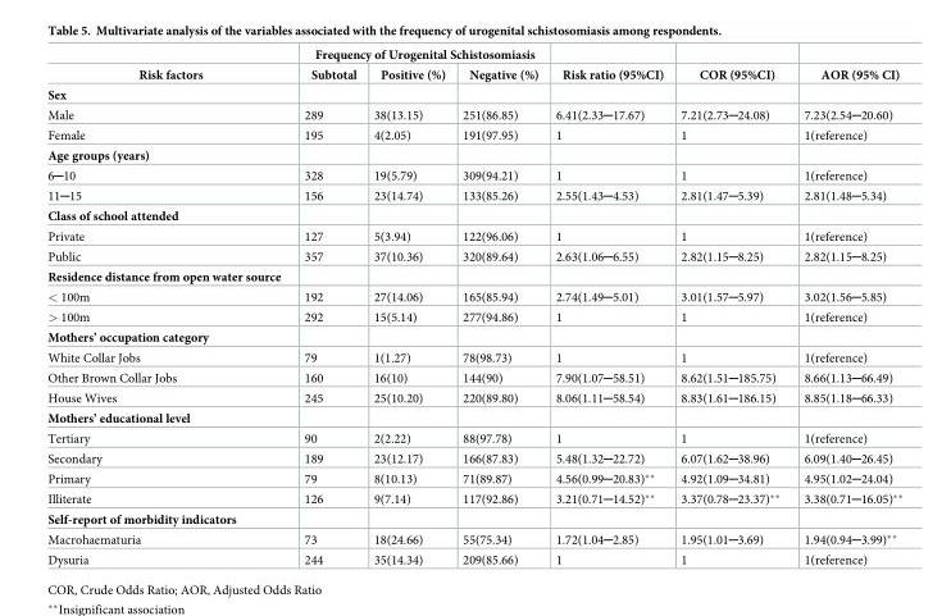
<table><thead><tr><td rowspan="2">Risk factors</td><td colspan="3">Frequency of Urogenital Schistosomiasis</td><td rowspan="2">Risk ratio (95%CI)</td><td rowspan="2">COR (95%CI)</td><td rowspan="2">AOR (95% CI)</td></tr><tr><td>Subtotal</td><td>Positive (%)</td><td>Negative (%)</td></tr></thead><tbody><tr><td colspan="7">Sex</td></tr><tr><td>Male</td><td>289</td><td>38(13.15)</td><td>251(86.85)</td><td>6.41(2.33─17.67)</td><td>7.21(2.73─24.08)</td><td>7.23(2.54─20.60)</td></tr><tr><td>Female</td><td>195</td><td>4(2.05)</td><td>191(97.95)</td><td>1</td><td>1</td><td>1(reference)</td></tr><tr><td colspan="7">Age groups (years)</td></tr><tr><td>6─10</td><td>328</td><td>19(5.79)</td><td>309(94.21)</td><td>1</td><td>1</td><td>1(reference)</td></tr><tr><td>11─15</td><td>156</td><td>23(14.74)</td><td>133(85.26)</td><td>2.55(1.43─4.53)</td><td>2.81(1.47─5.39)</td><td>2.81(1.48─5.34)</td></tr><tr><td colspan="7">Class of school attended</td></tr><tr><td>Private</td><td>127</td><td>5(3.94)</td><td>122(96.06)</td><td>1</td><td>1</td><td>1(reference)</td></tr><tr><td>Public</td><td>357</td><td>37(10.36)</td><td>320(89.64)</td><td>2.63(1.06─6.55)</td><td>2.82(1.15─8.25)</td><td>2.82(1.15─8.25)</td></tr><tr><td colspan="7">Residence distance from open water source</td></tr><tr><td>&lt; 100m</td><td>192</td><td>27(14.06)</td><td>165(85.94)</td><td>2.74(1.49─5.01)</td><td>3.01(1.57─5.97)</td><td>3.02(1.56─5.85)</td></tr><tr><td>&gt; 100m</td><td>292</td><td>15(5.14)</td><td>277(94.86)</td><td>1</td><td>1</td><td>1(reference)</td></tr><tr><td colspan="7">Mothers’ occupation category</td></tr><tr><td>White Collar Jobs</td><td>79</td><td>1(1.27)</td><td>78(98.73)</td><td>1</td><td>1</td><td>1(reference)</td></tr><tr><td>Other Brown Collar Jobs</td><td>160</td><td>16(10)</td><td>144(90)</td><td>7.90(1.07─58.51)</td><td>8.62(1.51─185.75)</td><td>8.66(1.13─66.49)</td></tr><tr><td>House Wives</td><td>245</td><td>25(10.20)</td><td>220(89.80)</td><td>8.06(1.11─58.54)</td><td>8.83(1.61─186.15)</td><td>8.85(1.18─66.33)</td></tr><tr><td colspan="7">Mothers’ educational level</td></tr><tr><td>Tertiary</td><td>90</td><td>2(2.22)</td><td>88(97.78)</td><td>1</td><td>1</td><td>1(reference)</td></tr><tr><td>Secondary</td><td>189</td><td>23(12.17)</td><td>166(87.83)</td><td>5.48(1.32─22.72)</td><td>6.07(1.62─38.96)</td><td>6.09(1.40─26.45)</td></tr><tr><td>Primary</td><td>79</td><td>8(10.13)</td><td>71(89.87)</td><td>4.56(0.99─20.83)**</td><td>4.92(1.09─34.81)</td><td>4.95(1.02─24.04)</td></tr><tr><td>Illiterate</td><td>126</td><td>9(7.14)</td><td>117(92.86)</td><td>3.21(0.71─14.52)**</td><td>3.37(0.78─23.37)**</td><td>3.38(0.71─16.05)**</td></tr><tr><td colspan="7">Self-report of morbidity indicators</td></tr><tr><td>Macrohaematuria</td><td>73</td><td>18(24.66)</td><td>55(75.34)</td><td>1.72(1.04─2.85)</td><td>1.95(1.01─3.69)</td><td>1.94(0.94─3.99)**</td></tr><tr><td>Dysuria</td><td>244</td><td>35(14.34)</td><td>209(85.66)</td><td>1</td><td>1</td><td>1(reference)</td></tr></tbody></table>